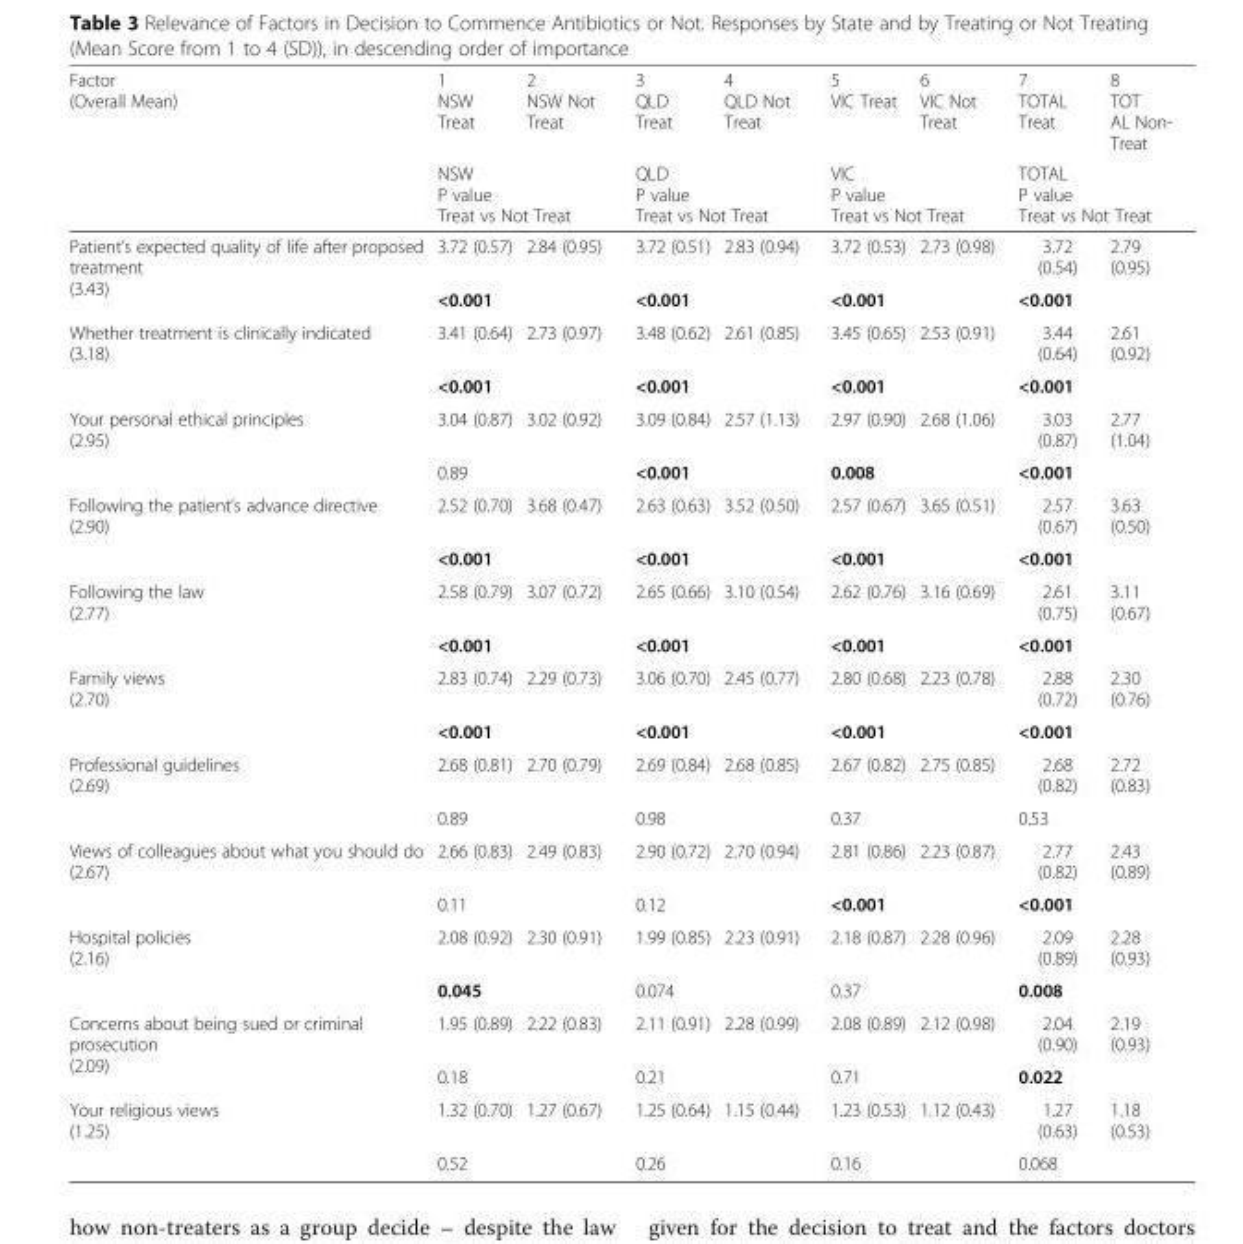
<table><thead><tr><td rowspan="2">Factor (Overall Mean)</td><td>1 NSW Treat</td><td>2 NSW Not Treat</td><td>3 QLD Treat</td><td>4 QLD Not Treat</td><td>5 VIC Treat</td><td>6 VIC Not Treat</td><td>7 TOTAL Treat</td><td>8 TOT AL Non- Treat</td></tr><tr><td colspan="2">NSW P value Treat vs Not Treat</td><td colspan="2">QLD P value Treat vs Not Treat</td><td colspan="2">VIC P value Treat vs Not Treat</td><td colspan="2">TOTAL P value Treat vs Not Treat</td></tr></thead><tbody><tr><td rowspan="2">Patient’s expected quality of life after proposed treatment (3.43)</td><td>3.72 (0.57)</td><td>2.84 (0.95)</td><td>3.72 (0.51)</td><td>2.83 (0.94)</td><td>3.72 (0.53)</td><td>2.73 (0.98)</td><td>3.72 (0.54)</td><td>2.79 (0.95)</td></tr><tr><td colspan="2">&lt;0.001</td><td colspan="2">&lt;0.001</td><td colspan="2">&lt;0.001</td><td colspan="2">&lt;0.001</td></tr><tr><td rowspan="2">Whether treatment is clinically indicated (3.18)</td><td>3.41 (0.64)</td><td>2.73 (0.97)</td><td>3.48 (0.62)</td><td>2.61 (0.85)</td><td>3.45 (0.65)</td><td>2.53 (0.91)</td><td>3.44 (0.64)</td><td>2.61 (0.92)</td></tr><tr><td colspan="2">&lt;0.001</td><td colspan="2">&lt;0.001</td><td colspan="2">&lt;0.001</td><td colspan="2">&lt;0.001</td></tr><tr><td rowspan="2">Your personal ethical principles (2.95)</td><td>3.04 (0.87)</td><td>3.02 (0.92)</td><td>3.09 (0.84)</td><td>2.57 (1.13)</td><td>2.97 (0.90)</td><td>2.68 (1.06)</td><td>3.03 (0.87)</td><td>2.77 (1.04)</td></tr><tr><td colspan="2">0.89</td><td colspan="2">&lt;0.001</td><td colspan="2">0.008</td><td colspan="2">&lt;0.001</td></tr><tr><td rowspan="2">Following the patient’s advance directive (2.90)</td><td>2.52 (0.70)</td><td>3.68 (0.47)</td><td>2.63 (0.63)</td><td>3.52 (0.50)</td><td>2.57 (0.67)</td><td>3.65 (0.51)</td><td>2.57 (0.67)</td><td>3.63 (0.50)</td></tr><tr><td colspan="2">&lt;0.001</td><td colspan="2">&lt;0.001</td><td colspan="2">&lt;0.001</td><td colspan="2">&lt;0.001</td></tr><tr><td rowspan="2">Following the law (2.77)</td><td>2.58 (0.79)</td><td>3.07 (0.72)</td><td>2.65 (0.66)</td><td>3.10 (0.54)</td><td>2.62 (0.76)</td><td>3.16 (0.69)</td><td>2.61 (0.75)</td><td>3.11 (0.67)</td></tr><tr><td colspan="2">&lt;0.001</td><td colspan="2">&lt;0.001</td><td colspan="2">&lt;0.001</td><td colspan="2">&lt;0.001</td></tr><tr><td rowspan="2">Family views (2.70)</td><td>2.83 (0.74)</td><td>2.29 (0.73)</td><td>3.06 (0.70)</td><td>2.45 (0.77)</td><td>2.80 (0.68)</td><td>2.23 (0.78)</td><td>2.88 (0.72)</td><td>2.30 (0.76)</td></tr><tr><td colspan="2">&lt;0.001</td><td colspan="2">&lt;0.001</td><td colspan="2">&lt;0.001</td><td colspan="2">&lt;0.001</td></tr><tr><td rowspan="2">Professional guidelines (2.69)</td><td>2.68 (0.81)</td><td>2.70 (0.79)</td><td>2.69 (0.84)</td><td>2.68 (0.85)</td><td>2.67 (0.82)</td><td>2.75 (0.85)</td><td>2.68 (0.82)</td><td>2.72 (0.83)</td></tr><tr><td colspan="2">0.89</td><td colspan="2">0.98</td><td colspan="2">0.37</td><td colspan="2">0.53</td></tr><tr><td rowspan="2">Views of colleagues about what you should do (2.67)</td><td>2.66 (0.83)</td><td>2.49 (0.83)</td><td>2.90 (0.72)</td><td>2.70 (0.94)</td><td>2.81 (0.86)</td><td>2.23 (0.87)</td><td>2.77 (0.82)</td><td>2.43 (0.89)</td></tr><tr><td colspan="2">0.11</td><td colspan="2">0.12</td><td colspan="2">&lt;0.001</td><td colspan="2">&lt;0.001</td></tr><tr><td rowspan="2">Hospital policies (2.16)</td><td>2.08 (0.92)</td><td>2.30 (0.91)</td><td>1.99 (0.85)</td><td>2.23 (0.91)</td><td>2.18 (0.87)</td><td>2.28 (0.96)</td><td>2.09 (0.89)</td><td>2.28 (0.93)</td></tr><tr><td colspan="2">0.045</td><td colspan="2">0.074</td><td colspan="2">0.37</td><td colspan="2">0.008</td></tr><tr><td rowspan="2">Concerns about being sued or criminal prosecution (2.09)</td><td>1.95 (0.89)</td><td>2.22 (0.83)</td><td>2.11 (0.91)</td><td>2.28 (0.99)</td><td>2.08 (0.89)</td><td>2.12 (0.98)</td><td>2.04 (0.90)</td><td>2.19 (0.93)</td></tr><tr><td colspan="2">0.18</td><td colspan="2">0.21</td><td colspan="2">0.71</td><td colspan="2">0.022</td></tr><tr><td rowspan="2">Your religious views (1.25)</td><td>1.32 (0.70)</td><td>1.27 (0.67)</td><td>1.25 (0.64)</td><td>1.15 (0.44)</td><td>1.23 (0.53)</td><td>1.12 (0.43)</td><td>1.27 (0.63)</td><td>1.18 (0.53)</td></tr><tr><td colspan="2">0.52</td><td colspan="2">0.26</td><td colspan="2">0.16</td><td colspan="2">0.068</td></tr></tbody></table>